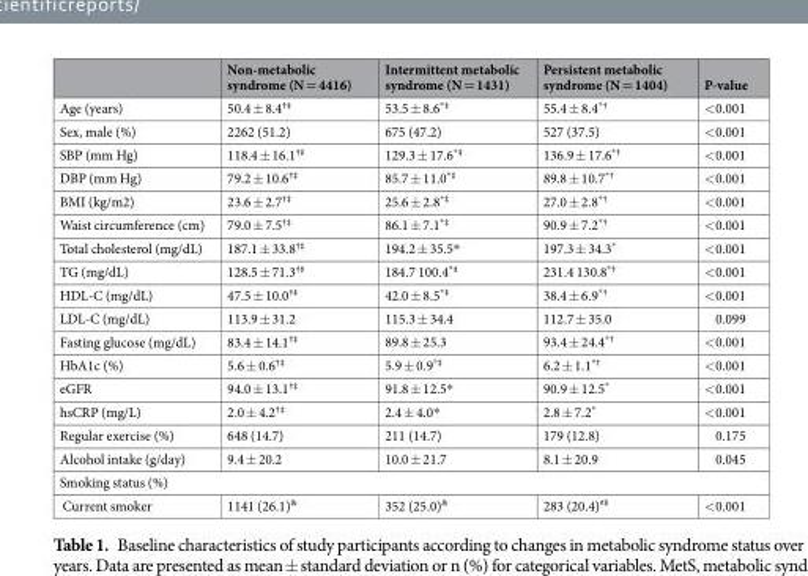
<table><thead><tr><td></td><td>Non-metabolic syndrome (N = 4416)</td><td>Intermittent metabolic syndrome (N = 1431)</td><td>Persistent metabolic syndrome (N = 1404)</td><td>P-value</td></tr></thead><tbody><tr><td>Age (years)</td><td>50.4 ± 8.4<sup>†‡</sup></td><td>53.5 ± 8.6<sup>*‡</sup></td><td>55.4 ± 8.4<sup>*†</sup></td><td>&lt;0.001</td></tr><tr><td>Sex, male (%)</td><td>2262 (51.2)</td><td>675 (47.2)</td><td>527 (37.5)</td><td>&lt;0.001</td></tr><tr><td>SBP (mm Hg)</td><td>118.4 ± 16.1<sup>†‡</sup></td><td>129.3 ± 17.6<sup>*‡</sup></td><td>136.9 ± 17.6<sup>*†</sup></td><td>&lt;0.001</td></tr><tr><td>DBP (mm Hg)</td><td>79.2 ± 10.6<sup>†‡</sup></td><td>85.7 ± 11.0<sup>*‡</sup></td><td>89.8 ± 10.7<sup>*†</sup></td><td>&lt;0.001</td></tr><tr><td>BMI (kg/m2)</td><td>23.6 ± 2.7<sup>†‡</sup></td><td>25.6 ± 2.8<sup>*‡</sup></td><td>27.0 ± 2.8<sup>*†</sup></td><td>&lt;0.001</td></tr><tr><td>Waist circumference (cm)</td><td>79.0 ± 7.5<sup>†‡</sup></td><td>86.1 ± 7.1<sup>*‡</sup></td><td>90.9 ± 7.2<sup>*†</sup></td><td>&lt;0.001</td></tr><tr><td>Total cholesterol (mg/dL)</td><td>187.1 ± 33.8<sup>†‡</sup></td><td>194.2 ± 35.5*</td><td>197.3 ± 34.3*</td><td>&lt;0.001</td></tr><tr><td>TG (mg/dL)</td><td>128.5 ± 71.3<sup>†‡</sup></td><td>184.7 100.4<sup>*‡</sup></td><td>231.4 130.8<sup>*†</sup></td><td>&lt;0.001</td></tr><tr><td>HDL-C (mg/dL)</td><td>47.5 ± 10.0<sup>†‡</sup></td><td>42.0 ± 8.5<sup>*‡</sup></td><td>38.4 ± 6.9<sup>*†</sup></td><td>&lt;0.001</td></tr><tr><td>LDL-C (mg/dL)</td><td>113.9 ± 31.2</td><td>115.3 ± 34.4</td><td>112.7 ± 35.0</td><td>0.099</td></tr><tr><td>Fasting glucose (mg/dL)</td><td>83.4 ± 14.1<sup>†‡</sup></td><td>89.8 ± 25.3</td><td>93.4 ± 24.4<sup>*†</sup></td><td>&lt;0.001</td></tr><tr><td>HbA1c (%)</td><td>5.6 ± 0.6<sup>†‡</sup></td><td>5.9 ± 0.9<sup>*‡</sup></td><td>6.2 ± 1.1<sup>*†</sup></td><td>&lt;0.001</td></tr><tr><td>eGFR</td><td>94.0 ± 13.1<sup>†‡</sup></td><td>91.8 ± 12.5*</td><td>90.9 ± 12.5*</td><td>&lt;0.001</td></tr><tr><td>hsCRP (mg/L)</td><td>2.0 ± 4.2<sup>†‡</sup></td><td>2.4 ± 4.0*</td><td>2.8 ± 7.2*</td><td>&lt;0.001</td></tr><tr><td>Regular exercise (%)</td><td>648 (14.7)</td><td>211 (14.7)</td><td>179 (12.8)</td><td>0.175</td></tr><tr><td>Alcohol intake (g/day)</td><td>9.4 ± 20.2</td><td>10.0 ± 21.7</td><td>8.1 ± 20.9</td><td>0.045</td></tr><tr><td colspan="5">Smoking status (%)</td></tr><tr><td>Current smoker</td><td>1141 (26.1)<sup>&amp;</sup></td><td>352 (25.0)<sup>&amp;</sup></td><td>283 (20.4)<sup>#$</sup></td><td>&lt;0.001</td></tr></tbody></table>